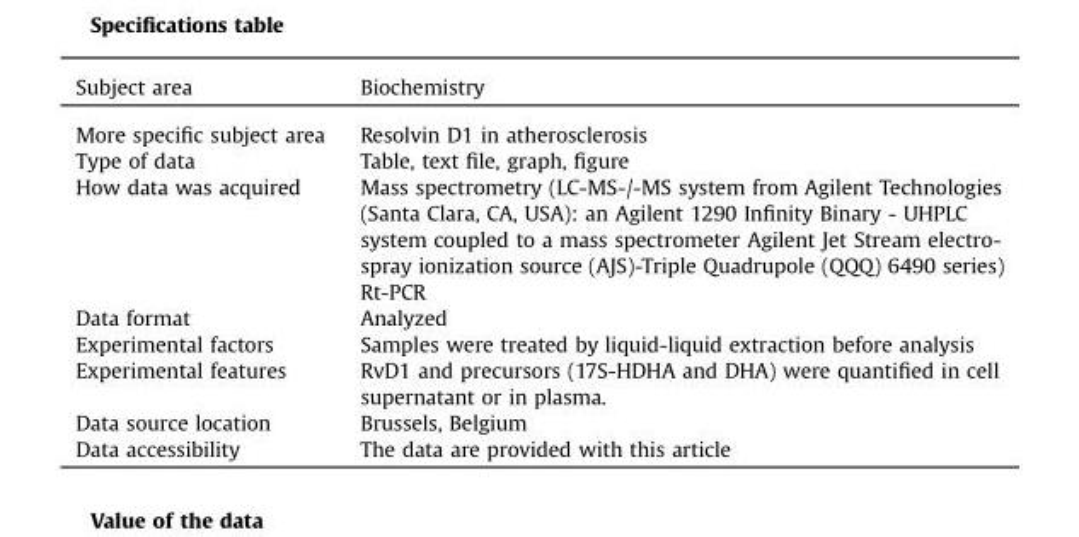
<table><thead><tr><td>Subject area</td><td>Biochemistry</td></tr></thead><tbody><tr><td>More specific subject area</td><td>Resolvin D1 in atherosclerosis</td></tr><tr><td>Type of data</td><td>Table, text file, graph, figure</td></tr><tr><td rowspan="2">How data was acquired</td><td>Mass spectrometry (LC-MS-/-MS system from Agilent Technologies (Santa Clara, CA, USA): an Agilent 1290 Infinity Binary - UHPLC system coupled to a mass spectrometer Agilent Jet Stream electro- spray ionization source (AJS)-Triple Quadrupole (QQQ) 6490 series)</td></tr><tr><td>Rt-PCR</td></tr><tr><td>Data format</td><td>Analyzed</td></tr><tr><td>Experimental factors</td><td>Samples were treated by liquid-liquid extraction before analysis</td></tr><tr><td>Experimental features</td><td>RvD1 and precursors (17S-HDHA and DHA) were quantified in cell supernatant or in plasma.</td></tr><tr><td>Data source location</td><td>Brussels, Belgium</td></tr><tr><td>Data accessibility</td><td>The data are provided with this article</td></tr></tbody></table>